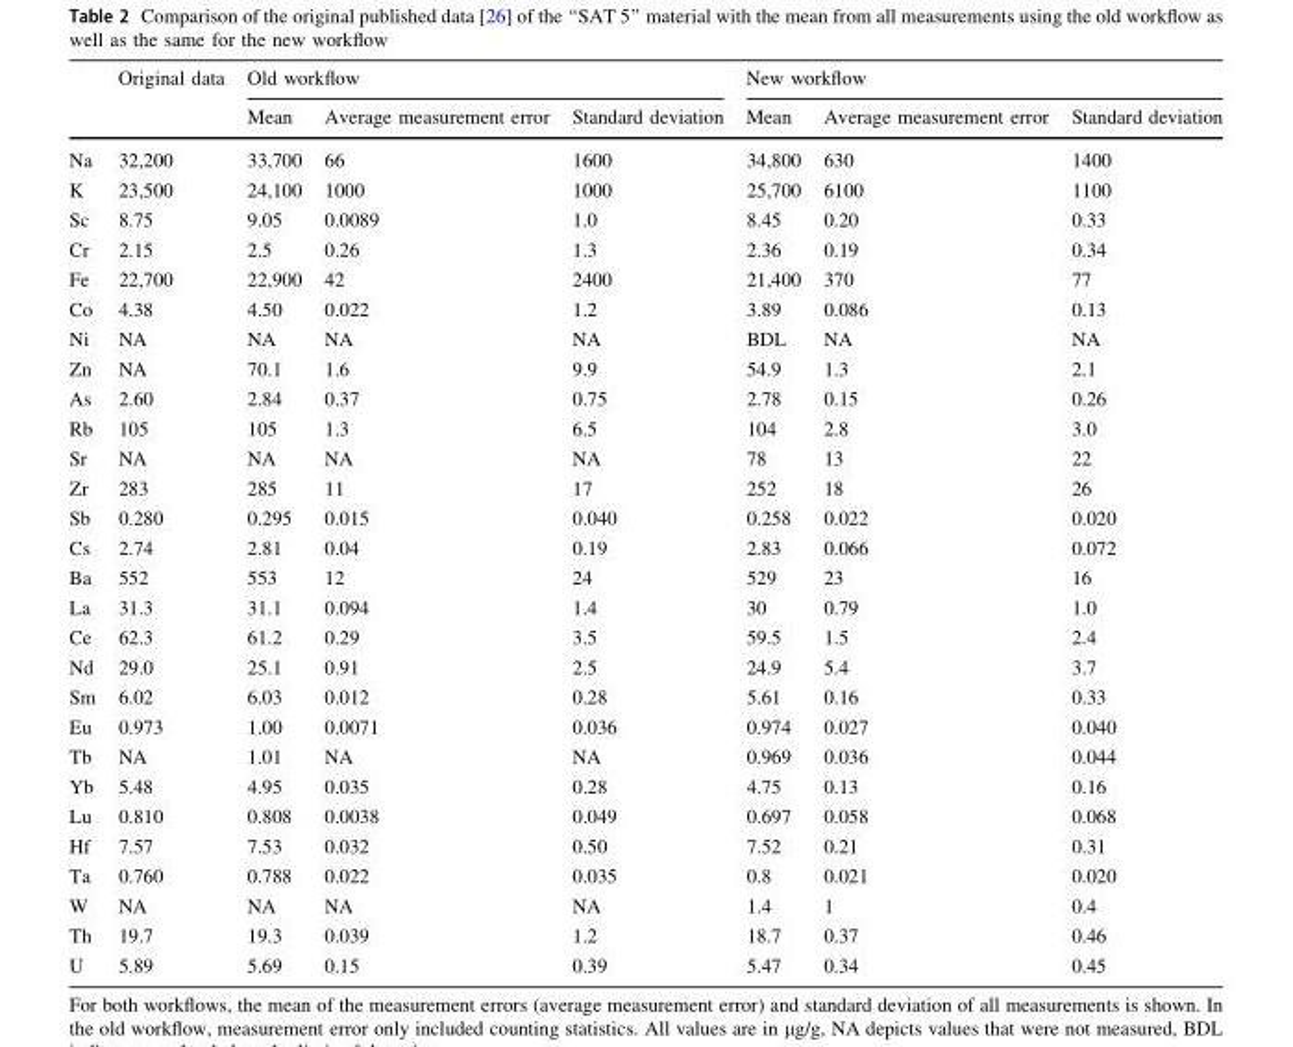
<table><thead><tr><td rowspan="2"></td><td rowspan="2">Original data</td><td colspan="3">Old workflow</td><td colspan="3">New workflow</td></tr><tr><td>Mean</td><td>Average measurement error</td><td>Standard deviation</td><td>Mean</td><td>Average measurement error</td><td>Standard deviation</td></tr></thead><tbody><tr><td>Na</td><td>32,200</td><td>33,700</td><td>66</td><td>1600</td><td>34,800</td><td>630</td><td>1400</td></tr><tr><td>K</td><td>23,500</td><td>24,100</td><td>1000</td><td>1000</td><td>25,700</td><td>6100</td><td>1100</td></tr><tr><td>Sc</td><td>8.75</td><td>9.05</td><td>0.0089</td><td>1.0</td><td>8.45</td><td>0.20</td><td>0.33</td></tr><tr><td>Cr</td><td>2.15</td><td>2.5</td><td>0.26</td><td>1.3</td><td>2.36</td><td>0.19</td><td>0.34</td></tr><tr><td>Fe</td><td>22,700</td><td>22,900</td><td>42</td><td>2400</td><td>21,400</td><td>370</td><td>77</td></tr><tr><td>Co</td><td>4.38</td><td>4.50</td><td>0.022</td><td>1.2</td><td>3.89</td><td>0.086</td><td>0.13</td></tr><tr><td>Ni</td><td>NA</td><td>NA</td><td>NA</td><td>NA</td><td>BDL</td><td>NA</td><td>NA</td></tr><tr><td>Zn</td><td>NA</td><td>70.1</td><td>1.6</td><td>9.9</td><td>54.9</td><td>1.3</td><td>2.1</td></tr><tr><td>As</td><td>2.60</td><td>2.84</td><td>0.37</td><td>0.75</td><td>2.78</td><td>0.15</td><td>0.26</td></tr><tr><td>Rb</td><td>105</td><td>105</td><td>1.3</td><td>6.5</td><td>104</td><td>2.8</td><td>3.0</td></tr><tr><td>Sr</td><td>NA</td><td>NA</td><td>NA</td><td>NA</td><td>78</td><td>13</td><td>22</td></tr><tr><td>Zr</td><td>283</td><td>285</td><td>11</td><td>17</td><td>252</td><td>18</td><td>26</td></tr><tr><td>Sb</td><td>0.280</td><td>0.295</td><td>0.015</td><td>0.040</td><td>0.258</td><td>0.022</td><td>0.020</td></tr><tr><td>Cs</td><td>2.74</td><td>2.81</td><td>0.04</td><td>0.19</td><td>2.83</td><td>0.066</td><td>0.072</td></tr><tr><td>Ba</td><td>552</td><td>553</td><td>12</td><td>24</td><td>529</td><td>23</td><td>16</td></tr><tr><td>La</td><td>31.3</td><td>31.1</td><td>0.094</td><td>1.4</td><td>30</td><td>0.79</td><td>1.0</td></tr><tr><td>Ce</td><td>62.3</td><td>61.2</td><td>0.29</td><td>3.5</td><td>59.5</td><td>1.5</td><td>2.4</td></tr><tr><td>Nd</td><td>29.0</td><td>25.1</td><td>0.91</td><td>2.5</td><td>24.9</td><td>5.4</td><td>3.7</td></tr><tr><td>Sm</td><td>6.02</td><td>6.03</td><td>0.012</td><td>0.28</td><td>5.61</td><td>0.16</td><td>0.33</td></tr><tr><td>Eu</td><td>0.973</td><td>1.00</td><td>0.0071</td><td>0.036</td><td>0.974</td><td>0.027</td><td>0.040</td></tr><tr><td>Tb</td><td>NA</td><td>1.01</td><td>NA</td><td>NA</td><td>0.969</td><td>0.036</td><td>0.044</td></tr><tr><td>Yb</td><td>5.48</td><td>4.95</td><td>0.035</td><td>0.28</td><td>4.75</td><td>0.13</td><td>0.16</td></tr><tr><td>Lu</td><td>0.810</td><td>0.808</td><td>0.0038</td><td>0.049</td><td>0.697</td><td>0.058</td><td>0.068</td></tr><tr><td>Hf</td><td>7.57</td><td>7.53</td><td>0.032</td><td>0.50</td><td>7.52</td><td>0.21</td><td>0.31</td></tr><tr><td>Ta</td><td>0.760</td><td>0.788</td><td>0.022</td><td>0.035</td><td>0.8</td><td>0.021</td><td>0.020</td></tr><tr><td>W</td><td>NA</td><td>NA</td><td>NA</td><td>NA</td><td>1.4</td><td>1</td><td>0.4</td></tr><tr><td>Th</td><td>19.7</td><td>19.3</td><td>0.039</td><td>1.2</td><td>18.7</td><td>0.37</td><td>0.46</td></tr><tr><td>U</td><td>5.89</td><td>5.69</td><td>0.15</td><td>0.39</td><td>5.47</td><td>0.34</td><td>0.45</td></tr></tbody></table>